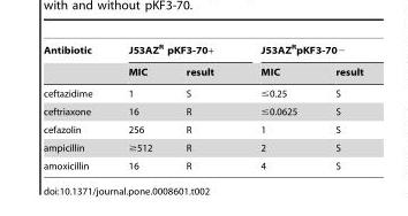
<table><thead><tr><td rowspan="2">Antibiotic</td><td colspan="2">J53AZ<sup>R</sup> pKF3-70+</td><td colspan="2">J53AZ<sup>R</sup>pKF3-70−</td></tr><tr><td>MIC</td><td>result</td><td>MIC</td><td>result</td></tr></thead><tbody><tr><td>ceftazidime</td><td>1</td><td>S</td><td>≤0.25</td><td>S</td></tr><tr><td>ceftriaxone</td><td>16</td><td>R</td><td>≤0.0625</td><td>S</td></tr><tr><td>cefazolin</td><td>256</td><td>R</td><td>1</td><td>S</td></tr><tr><td>ampicillin</td><td>≥512</td><td>R</td><td>2</td><td>S</td></tr><tr><td>amoxicillin</td><td>16</td><td>R</td><td>4</td><td>S</td></tr></tbody></table>